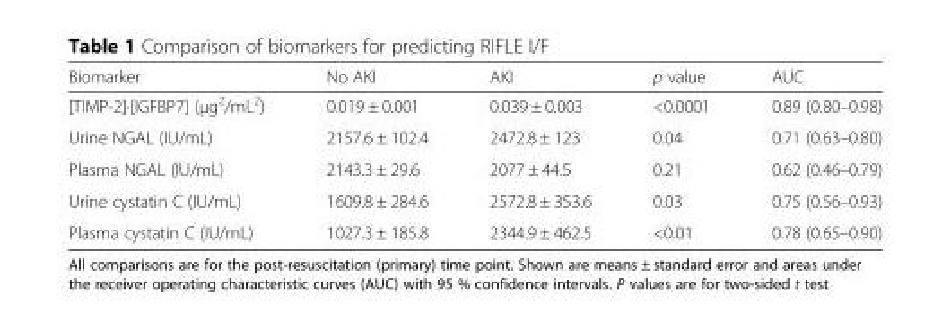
<table><thead><tr><td>Biomarker</td><td>No AKI</td><td>AKI</td><td>p value</td><td>AUC</td></tr></thead><tbody><tr><td>[TIMP-2]·[IGFBP7] (μg<sup>2</sup>/mL<sup>2</sup>)</td><td>0.019 ± 0.001</td><td>0.039 ± 0.003</td><td>&lt;0.0001</td><td>0.89 (0.80–0.98)</td></tr><tr><td>Urine NGAL (IU/mL)</td><td>2157.6 ± 102.4</td><td>2472.8 ± 123</td><td>0.04</td><td>0.71 (0.63–0.80)</td></tr><tr><td>Plasma NGAL (IU/mL)</td><td>2143.3 ± 29.6</td><td>2077 ± 44.5</td><td>0.21</td><td>0.62 (0.46–0.79)</td></tr><tr><td>Urine cystatin C (IU/mL)</td><td>1609.8 ± 284.6</td><td>2572.8 ± 353.6</td><td>0.03</td><td>0.75 (0.56–0.93)</td></tr><tr><td>Plasma cystatin C (IU/mL)</td><td>1027.3 ± 185.8</td><td>2344.9 ± 462.5</td><td>&lt;0.01</td><td>0.78 (0.65–0.90)</td></tr></tbody></table>